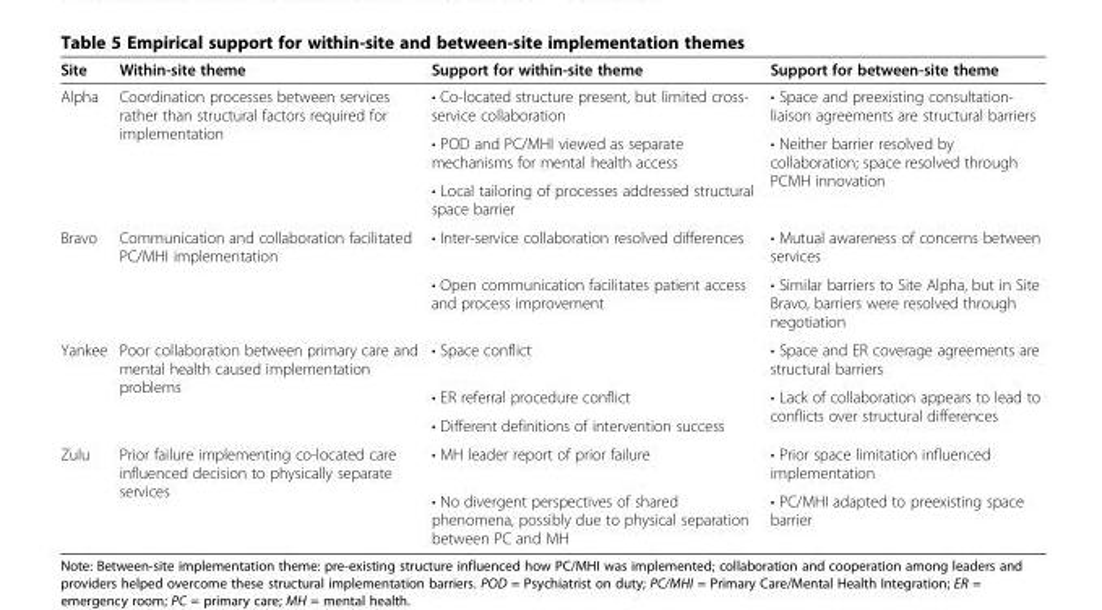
<table><thead><tr><td>Site</td><td>Within-site theme</td><td>Support for within-site theme</td><td>Support for between-site theme</td></tr></thead><tbody><tr><td rowspan="3">Alpha</td><td rowspan="3">Coordination processes between services rather than structural factors required for implementation</td><td>• Co-located structure present, but limited cross- service collaboration</td><td>• Space and preexisting consultation- liaison agreements are structural barriers</td></tr><tr><td>• POD and PC/MHI viewed as separate mechanisms for mental health access</td><td rowspan="2">• Neither barrier resolved by collaboration; space resolved through PCMH innovation</td></tr><tr><td>• Local tailoring of processes addressed structural space barrier</td></tr><tr><td rowspan="2">Bravo</td><td rowspan="2">Communication and collaboration facilitated PC/MHI implementation</td><td>• Inter-service collaboration resolved differences</td><td>• Mutual awareness of concerns between services</td></tr><tr><td>• Open communication facilitates patient access and process improvement</td><td>• Similar barriers to Site Alpha, but in Site Bravo, barriers were resolved through negotiation</td></tr><tr><td rowspan="3">Yankee</td><td rowspan="3">Poor collaboration between primary care and mental health caused implementation problems</td><td>• Space conflict</td><td>• Space and ER coverage agreements are structural barriers</td></tr><tr><td>• ER referral procedure conflict</td><td rowspan="2">• Lack of collaboration appears to lead to conflicts over structural differences</td></tr><tr><td>• Different definitions of intervention success</td></tr><tr><td rowspan="2">Zulu</td><td rowspan="2">Prior failure implementing co-located care influenced decision to physically separate services</td><td>• MH leader report of prior failure</td><td>• Prior space limitation influenced implementation</td></tr><tr><td>• No divergent perspectives of shared phenomena, possibly due to physical separation between PC and MH</td><td>• PC/MHI adapted to preexisting space barrier</td></tr></tbody></table>